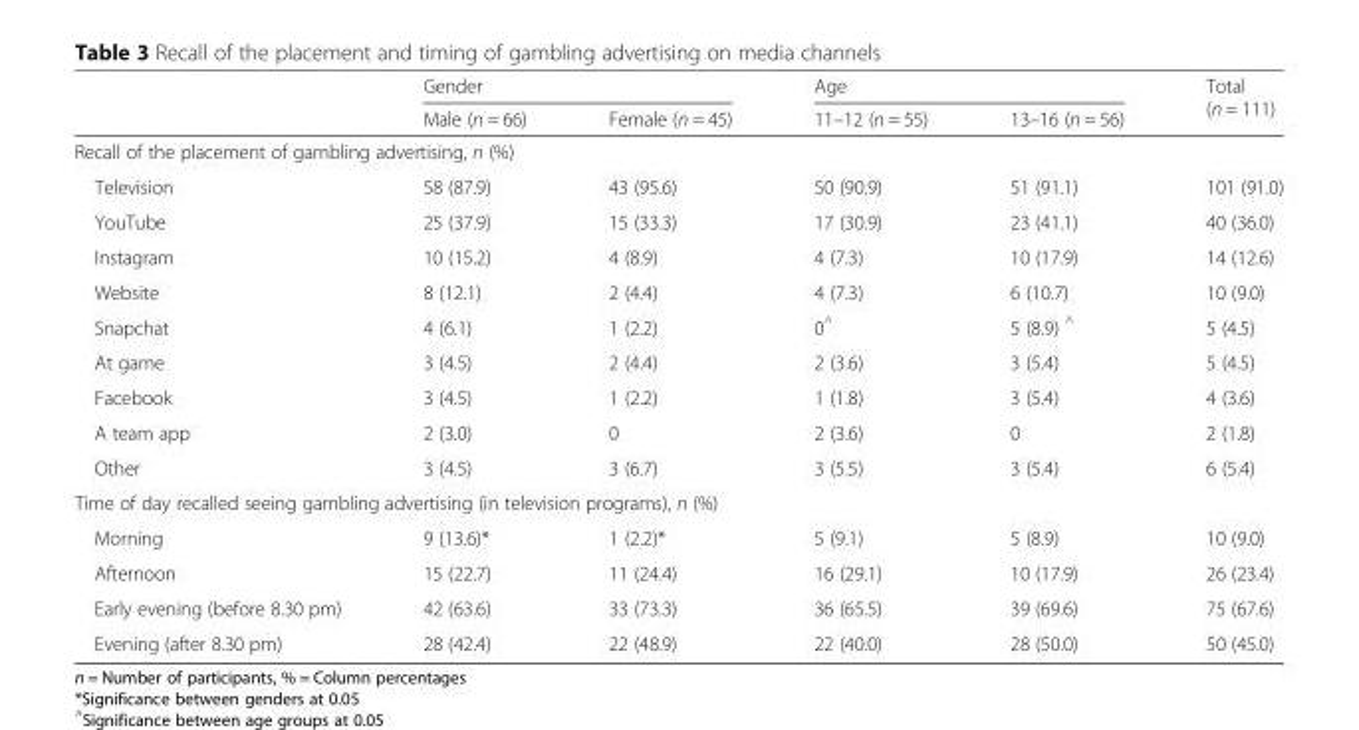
<table><thead><tr><td rowspan="2"></td><td colspan="2">Gender</td><td colspan="2">Age</td><td rowspan="2">Total (n = 111)</td></tr><tr><td>Male (n = 66)</td><td>Female (n = 45)</td><td>11–12 (n = 55)</td><td>13–16 (n = 56)</td></tr></thead><tbody><tr><td colspan="6">Recall of the placement of gambling advertising, n (%)</td></tr><tr><td>Television</td><td>58 (87.9)</td><td>43 (95.6)</td><td>50 (90.9)</td><td>51 (91.1)</td><td>101 (91.0)</td></tr><tr><td>YouTube</td><td>25 (37.9)</td><td>15 (33.3)</td><td>17 (30.9)</td><td>23 (41.1)</td><td>40 (36.0)</td></tr><tr><td>Instagram</td><td>10 (15.2)</td><td>4 (8.9)</td><td>4 (7.3)</td><td>10 (17.9)</td><td>14 (12.6)</td></tr><tr><td>Website</td><td>8 (12.1)</td><td>2 (4.4)</td><td>4 (7.3)</td><td>6 (10.7)</td><td>10 (9.0)</td></tr><tr><td>Snapchat</td><td>4 (6.1)</td><td>1 (2.2)</td><td>0<sup>^</sup></td><td>5 (8.9) <sup>^</sup></td><td>5 (4.5)</td></tr><tr><td>At game</td><td>3 (4.5)</td><td>2 (4.4)</td><td>2 (3.6)</td><td>3 (5.4)</td><td>5 (4.5)</td></tr><tr><td>Facebook</td><td>3 (4.5)</td><td>1 (2.2)</td><td>1 (1.8)</td><td>3 (5.4)</td><td>4 (3.6)</td></tr><tr><td>A team app</td><td>2 (3.0)</td><td>0</td><td>2 (3.6)</td><td>0</td><td>2 (1.8)</td></tr><tr><td>Other</td><td>3 (4.5)</td><td>3 (6.7)</td><td>3 (5.5)</td><td>3 (5.4)</td><td>6 (5.4)</td></tr><tr><td colspan="6">Time of day recalled seeing gambling advertising (in television programs), n (%)</td></tr><tr><td>Morning</td><td>9 (13.6)*</td><td>1 (2.2)*</td><td>5 (9.1)</td><td>5 (8.9)</td><td>10 (9.0)</td></tr><tr><td>Afternoon</td><td>15 (22.7)</td><td>11 (24.4)</td><td>16 (29.1)</td><td>10 (17.9)</td><td>26 (23.4)</td></tr><tr><td>Early evening (before 8.30 pm)</td><td>42 (63.6)</td><td>33 (73.3)</td><td>36 (65.5)</td><td>39 (69.6)</td><td>75 (67.6)</td></tr><tr><td>Evening (after 8.30 pm)</td><td>28 (42.4)</td><td>22 (48.9)</td><td>22 (40.0)</td><td>28 (50.0)</td><td>50 (45.0)</td></tr></tbody></table>